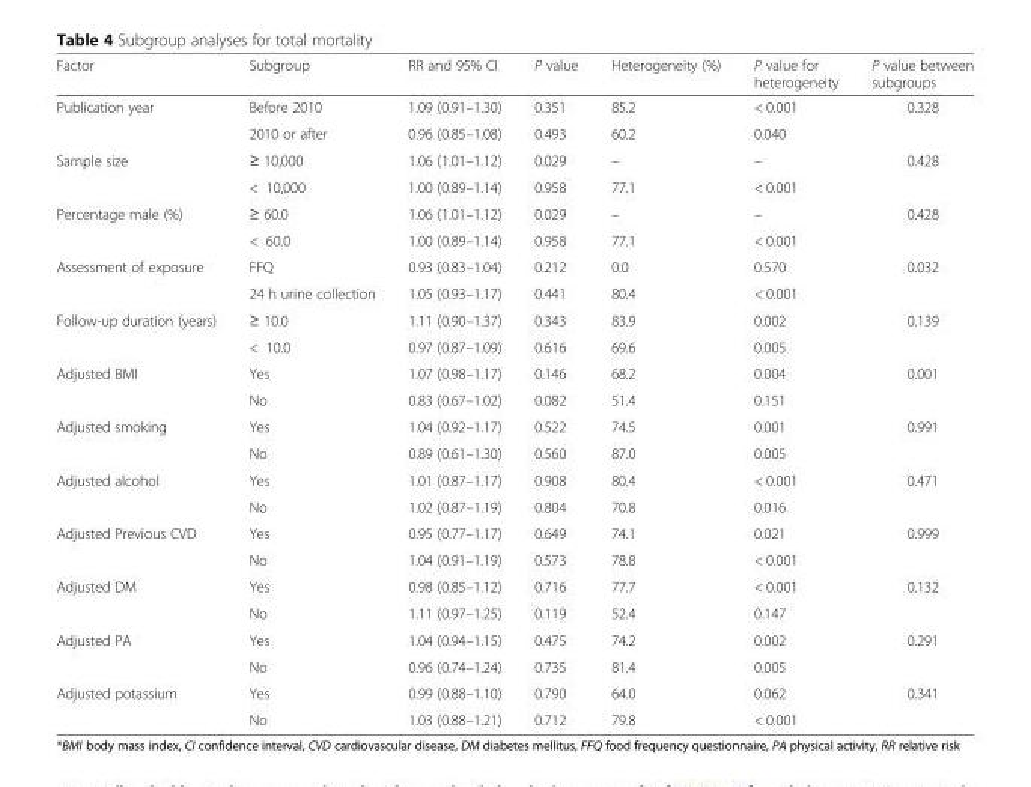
<table><thead><tr><td>Factor</td><td>Subgroup</td><td>RR and 95% CI</td><td>P value</td><td>Heterogeneity (%)</td><td>P value for heterogeneity</td><td>P value between subgroups</td></tr></thead><tbody><tr><td rowspan="2">Publication year</td><td>Before 2010</td><td>1.09 (0.91–1.30)</td><td>0.351</td><td>85.2</td><td>&lt; 0.001</td><td rowspan="2">0.328</td></tr><tr><td>2010 or after</td><td>0.96 (0.85–1.08)</td><td>0.493</td><td>60.2</td><td>0.040</td></tr><tr><td rowspan="2">Sample size</td><td>≥ 10,000</td><td>1.06 (1.01–1.12)</td><td>0.029</td><td>–</td><td>–</td><td rowspan="2">0.428</td></tr><tr><td>&lt; 10,000</td><td>1.00 (0.89–1.14)</td><td>0.958</td><td>77.1</td><td>&lt; 0.001</td></tr><tr><td rowspan="2">Percentage male (%)</td><td>≥ 60.0</td><td>1.06 (1.01–1.12)</td><td>0.029</td><td>–</td><td>–</td><td rowspan="2">0.428</td></tr><tr><td>&lt; 60.0</td><td>1.00 (0.89–1.14)</td><td>0.958</td><td>77.1</td><td>&lt; 0.001</td></tr><tr><td rowspan="2">Assessment of exposure</td><td>FFQ</td><td>0.93 (0.83–1.04)</td><td>0.212</td><td>0.0</td><td>0.570</td><td rowspan="2">0.032</td></tr><tr><td>24 h urine collection</td><td>1.05 (0.93–1.17)</td><td>0.441</td><td>80.4</td><td>&lt; 0.001</td></tr><tr><td rowspan="2">Follow-up duration (years)</td><td>≥ 10.0</td><td>1.11 (0.90–1.37)</td><td>0.343</td><td>83.9</td><td>0.002</td><td rowspan="2">0.139</td></tr><tr><td>&lt; 10.0</td><td>0.97 (0.87–1.09)</td><td>0.616</td><td>69.6</td><td>0.005</td></tr><tr><td rowspan="2">Adjusted BMI</td><td>Yes</td><td>1.07 (0.98–1.17)</td><td>0.146</td><td>68.2</td><td>0.004</td><td rowspan="2">0.001</td></tr><tr><td>No</td><td>0.83 (0.67–1.02)</td><td>0.082</td><td>51.4</td><td>0.151</td></tr><tr><td rowspan="2">Adjusted smoking</td><td>Yes</td><td>1.04 (0.92–1.17)</td><td>0.522</td><td>74.5</td><td>0.001</td><td rowspan="2">0.991</td></tr><tr><td>No</td><td>0.89 (0.61–1.30)</td><td>0.560</td><td>87.0</td><td>0.005</td></tr><tr><td rowspan="2">Adjusted alcohol</td><td>Yes</td><td>1.01 (0.87–1.17)</td><td>0.908</td><td>80.4</td><td>&lt; 0.001</td><td rowspan="2">0.471</td></tr><tr><td>No</td><td>1.02 (0.87–1.19)</td><td>0.804</td><td>70.8</td><td>0.016</td></tr><tr><td rowspan="2">Adjusted Previous CVD</td><td>Yes</td><td>0.95 (0.77–1.17)</td><td>0.649</td><td>74.1</td><td>0.021</td><td rowspan="2">0.999</td></tr><tr><td>No</td><td>1.04 (0.91–1.19)</td><td>0.573</td><td>78.8</td><td>&lt; 0.001</td></tr><tr><td rowspan="2">Adjusted DM</td><td>Yes</td><td>0.98 (0.85–1.12)</td><td>0.716</td><td>77.7</td><td>&lt; 0.001</td><td rowspan="2">0.132</td></tr><tr><td>No</td><td>1.11 (0.97–1.25)</td><td>0.119</td><td>52.4</td><td>0.147</td></tr><tr><td rowspan="2">Adjusted PA</td><td>Yes</td><td>1.04 (0.94–1.15)</td><td>0.475</td><td>74.2</td><td>0.002</td><td rowspan="2">0.291</td></tr><tr><td>No</td><td>0.96 (0.74–1.24)</td><td>0.735</td><td>81.4</td><td>0.005</td></tr><tr><td rowspan="2">Adjusted potassium</td><td>Yes</td><td>0.99 (0.88–1.10)</td><td>0.790</td><td>64.0</td><td>0.062</td><td rowspan="2">0.341</td></tr><tr><td>No</td><td>1.03 (0.88–1.21)</td><td>0.712</td><td>79.8</td><td>&lt; 0.001</td></tr></tbody></table>